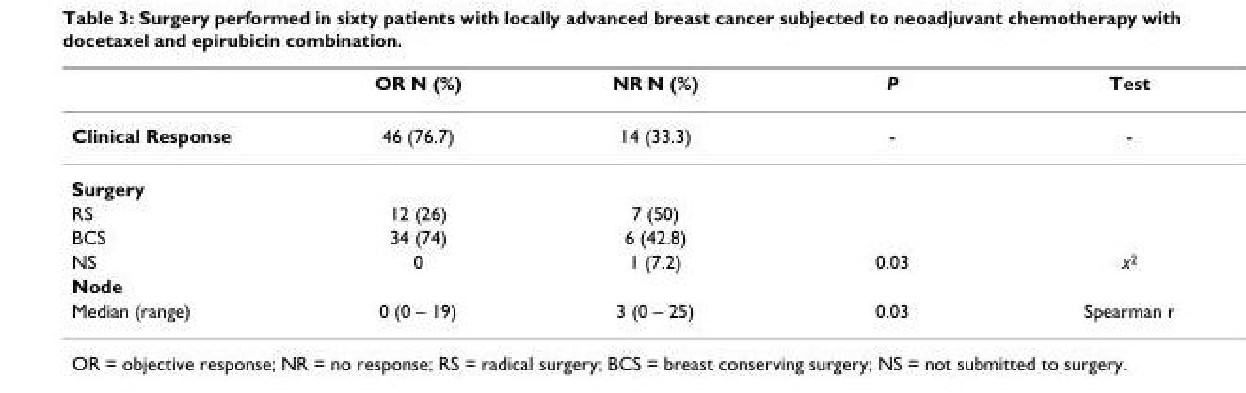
<table><thead><tr><td></td><td>OR N (%)</td><td>NR N (%)</td><td>P</td><td>Test</td></tr></thead><tbody><tr><td>Clinical Response</td><td>46 (76.7)</td><td>14 (33.3)</td><td>-</td><td>-</td></tr><tr><td colspan="5">Surgery</td></tr><tr><td>RS</td><td>12 (26)</td><td>7 (50)</td><td></td><td></td></tr><tr><td>BCS</td><td>34 (74)</td><td>6 (42.8)</td><td></td><td></td></tr><tr><td>NS</td><td>0</td><td>1 (7.2)</td><td>0.03</td><td>x2</td></tr><tr><td colspan="5">Node</td></tr><tr><td>Median (range)</td><td>0 (0 – 19)</td><td>3 (0 – 25)</td><td>0.03</td><td>Spearman r</td></tr></tbody></table>